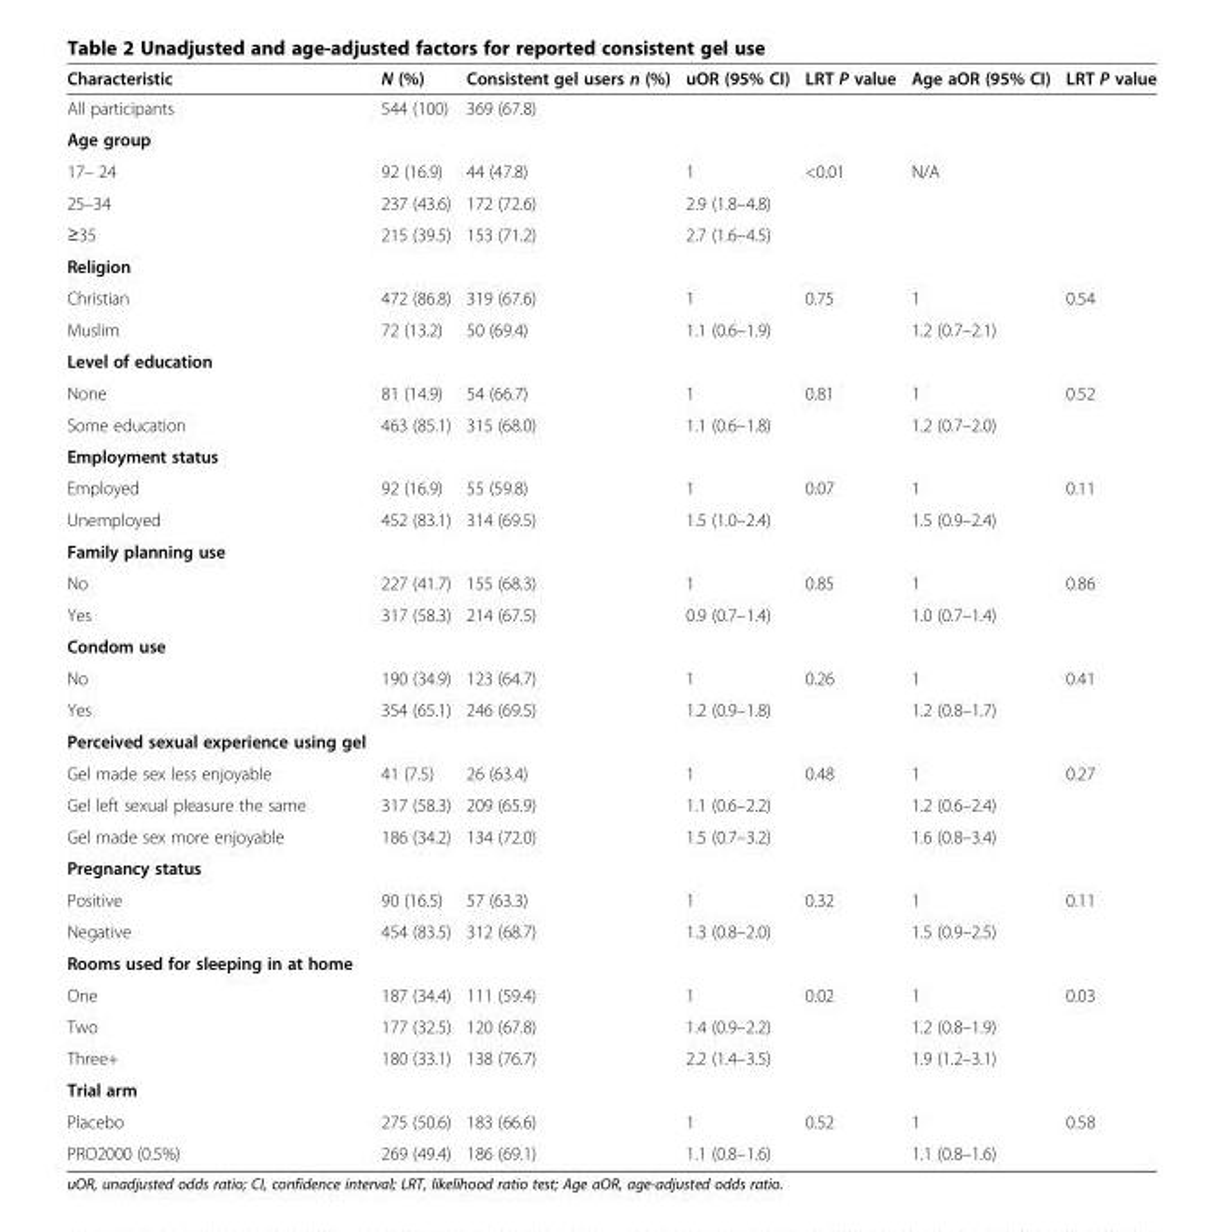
<table><thead><tr><td>Characteristic</td><td>N (%)</td><td>Consistent gel users n (%)</td><td>uOR (95% CI)</td><td>LRT P value</td><td>Age aOR (95% CI)</td><td>LRT P value</td></tr></thead><tbody><tr><td>All participants</td><td>544 (100)</td><td>369 (67.8)</td><td></td><td></td><td></td><td></td></tr><tr><td colspan="7">Age group</td></tr><tr><td>17– 24</td><td>92 (16.9)</td><td>44 (47.8)</td><td>1</td><td>&lt;0.01</td><td>N/A</td><td></td></tr><tr><td>25–34</td><td>237 (43.6)</td><td>172 (72.6)</td><td>2.9 (1.8–4.8)</td><td></td><td></td><td></td></tr><tr><td>≥35</td><td>215 (39.5)</td><td>153 (71.2)</td><td>2.7 (1.6–4.5)</td><td></td><td></td><td></td></tr><tr><td colspan="7">Religion</td></tr><tr><td>Christian</td><td>472 (86.8)</td><td>319 (67.6)</td><td>1</td><td>0.75</td><td>1</td><td>0.54</td></tr><tr><td>Muslim</td><td>72 (13.2)</td><td>50 (69.4)</td><td>1.1 (0.6–1.9)</td><td></td><td>1.2 (0.7–2.1)</td><td></td></tr><tr><td colspan="7">Level of education</td></tr><tr><td>None</td><td>81 (14.9)</td><td>54 (66.7)</td><td>1</td><td>0.81</td><td>1</td><td>0.52</td></tr><tr><td>Some education</td><td>463 (85.1)</td><td>315 (68.0)</td><td>1.1 (0.6–1.8)</td><td></td><td>1.2 (0.7–2.0)</td><td></td></tr><tr><td colspan="7">Employment status</td></tr><tr><td>Employed</td><td>92 (16.9)</td><td>55 (59.8)</td><td>1</td><td>0.07</td><td>1</td><td>0.11</td></tr><tr><td>Unemployed</td><td>452 (83.1)</td><td>314 (69.5)</td><td>1.5 (1.0–2.4)</td><td></td><td>1.5 (0.9–2.4)</td><td></td></tr><tr><td colspan="7">Family planning use</td></tr><tr><td>No</td><td>227 (41.7)</td><td>155 (68.3)</td><td>1</td><td>0.85</td><td>1</td><td>0.86</td></tr><tr><td>Yes</td><td>317 (58.3)</td><td>214 (67.5)</td><td>0.9 (0.7–1.4)</td><td></td><td>1.0 (0.7–1.4)</td><td></td></tr><tr><td colspan="7">Condom use</td></tr><tr><td>No</td><td>190 (34.9)</td><td>123 (64.7)</td><td>1</td><td>0.26</td><td>1</td><td>0.41</td></tr><tr><td>Yes</td><td>354 (65.1)</td><td>246 (69.5)</td><td>1.2 (0.9–1.8)</td><td></td><td>1.2 (0.8–1.7)</td><td></td></tr><tr><td colspan="7">Perceived sexual experience using gel</td></tr><tr><td>Gel made sex less enjoyable</td><td>41 (7.5)</td><td>26 (63.4)</td><td>1</td><td>0.48</td><td>1</td><td>0.27</td></tr><tr><td>Gel left sexual pleasure the same</td><td>317 (58.3)</td><td>209 (65.9)</td><td>1.1 (0.6–2.2)</td><td></td><td>1.2 (0.6–2.4)</td><td></td></tr><tr><td>Gel made sex more enjoyable</td><td>186 (34.2)</td><td>134 (72.0)</td><td>1.5 (0.7–3.2)</td><td></td><td>1.6 (0.8–3.4)</td><td></td></tr><tr><td colspan="7">Pregnancy status</td></tr><tr><td>Positive</td><td>90 (16.5)</td><td>57 (63.3)</td><td>1</td><td>0.32</td><td>1</td><td>0.11</td></tr><tr><td>Negative</td><td>454 (83.5)</td><td>312 (68.7)</td><td>1.3 (0.8–2.0)</td><td></td><td>1.5 (0.9–2.5)</td><td></td></tr><tr><td colspan="7">Rooms used for sleeping in at home</td></tr><tr><td>One</td><td>187 (34.4)</td><td>111 (59.4)</td><td>1</td><td>0.02</td><td>1</td><td>0.03</td></tr><tr><td>Two</td><td>177 (32.5)</td><td>120 (67.8)</td><td>1.4 (0.9–2.2)</td><td></td><td>1.2 (0.8–1.9)</td><td></td></tr><tr><td>Three+</td><td>180 (33.1)</td><td>138 (76.7)</td><td>2.2 (1.4–3.5)</td><td></td><td>1.9 (1.2–3.1)</td><td></td></tr><tr><td colspan="7">Trial arm</td></tr><tr><td>Placebo</td><td>275 (50.6)</td><td>183 (66.6)</td><td>1</td><td>0.52</td><td>1</td><td>0.58</td></tr><tr><td>PRO2000 (0.5%)</td><td>269 (49.4)</td><td>186 (69.1)</td><td>1.1 (0.8–1.6)</td><td></td><td>1.1 (0.8–1.6)</td><td></td></tr></tbody></table>